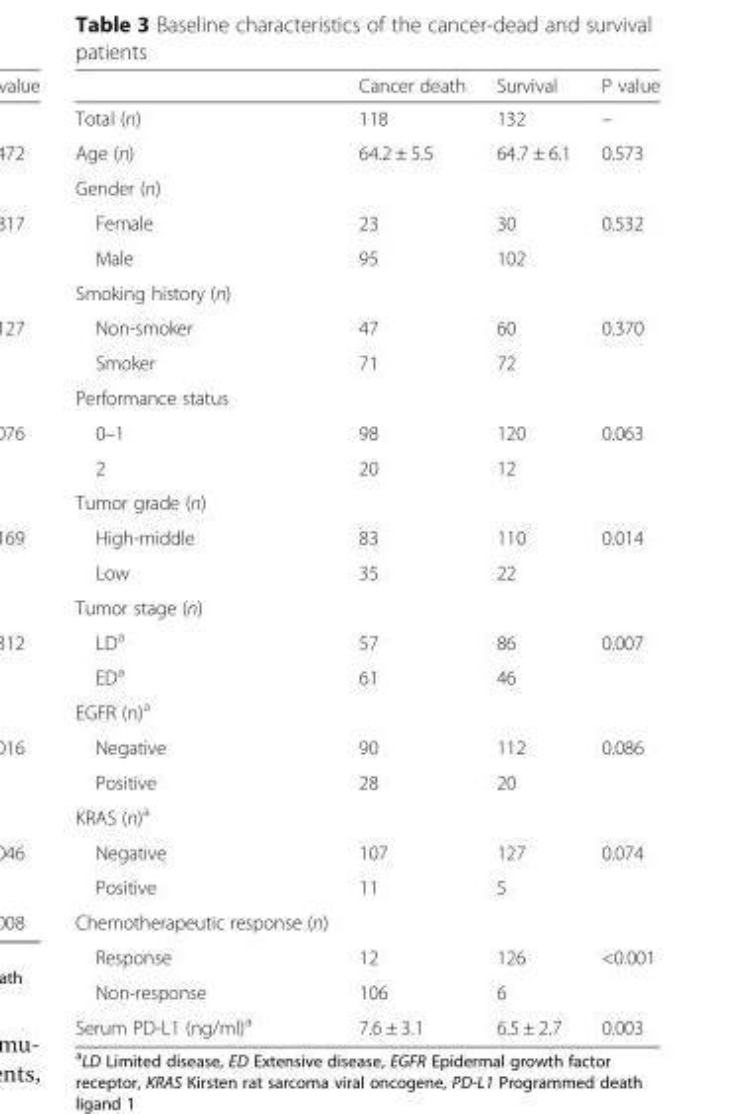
<table><thead><tr><td></td><td>Cancer death</td><td>Survival</td><td>P value</td></tr></thead><tbody><tr><td>Total (n)</td><td>118</td><td>132</td><td>–</td></tr><tr><td>Age (n)</td><td>64.2 ± 5.5</td><td>64.7 ± 6.1</td><td>0.573</td></tr><tr><td colspan="4">Gender (n)</td></tr><tr><td>Female</td><td>23</td><td>30</td><td>0.532</td></tr><tr><td>Male</td><td>95</td><td>102</td><td></td></tr><tr><td colspan="4">Smoking history (n)</td></tr><tr><td>Non-smoker</td><td>47</td><td>60</td><td>0.370</td></tr><tr><td>Smoker</td><td>71</td><td>72</td><td></td></tr><tr><td colspan="4">Performance status</td></tr><tr><td>0–1</td><td>98</td><td>120</td><td>0.063</td></tr><tr><td>2</td><td>20</td><td>12</td><td></td></tr><tr><td colspan="4">Tumor grade (n)</td></tr><tr><td>High-middle</td><td>83</td><td>110</td><td>0.014</td></tr><tr><td>Low</td><td>35</td><td>22</td><td></td></tr><tr><td colspan="4">Tumor stage (n)</td></tr><tr><td>LD<sup>a</sup></td><td>57</td><td>86</td><td>0.007</td></tr><tr><td>ED<sup>a</sup></td><td>61</td><td>46</td><td></td></tr><tr><td colspan="4">EGFR (n)<sup>a</sup></td></tr><tr><td>Negative</td><td>90</td><td>112</td><td>0.086</td></tr><tr><td>Positive</td><td>28</td><td>20</td><td></td></tr><tr><td colspan="4">KRAS (n)<sup>a</sup></td></tr><tr><td>Negative</td><td>107</td><td>127</td><td>0.074</td></tr><tr><td>Positive</td><td>11</td><td>5</td><td></td></tr><tr><td colspan="4">Chemotherapeutic response (n)</td></tr><tr><td>Response</td><td>12</td><td>126</td><td>&lt;0.001</td></tr><tr><td>Non-response</td><td>106</td><td>6</td><td></td></tr><tr><td>Serum PD-L1 (ng/ml)<sup>a</sup></td><td>7.6 ± 3.1</td><td>6.5 ± 2.7</td><td>0.003</td></tr></tbody></table>